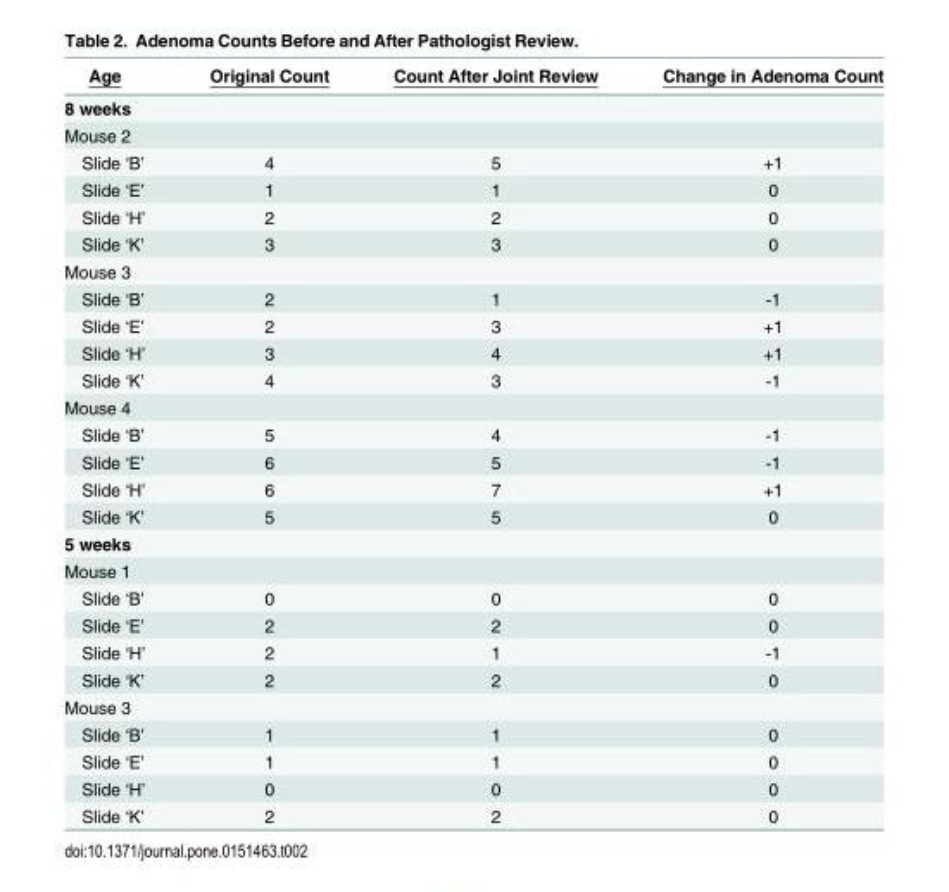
<table><thead><tr><td>Age</td><td>Original Count</td><td>Count After Joint Review</td><td>Change in Adenoma Count</td></tr></thead><tbody><tr><td colspan="4">8 weeks</td></tr><tr><td colspan="4">Mouse 2</td></tr><tr><td>Slide ‘B’</td><td>4</td><td>5</td><td>+1</td></tr><tr><td>Slide ‘E’</td><td>1</td><td>1</td><td>0</td></tr><tr><td>Slide ‘H’</td><td>2</td><td>2</td><td>0</td></tr><tr><td>Slide ‘K’</td><td>3</td><td>3</td><td>0</td></tr><tr><td colspan="4">Mouse 3</td></tr><tr><td>Slide ‘B’</td><td>2</td><td>1</td><td>-1</td></tr><tr><td>Slide ‘E’</td><td>2</td><td>3</td><td>+1</td></tr><tr><td>Slide ‘H’</td><td>3</td><td>4</td><td>+1</td></tr><tr><td>Slide ‘K’</td><td>4</td><td>3</td><td>-1</td></tr><tr><td colspan="4">Mouse 4</td></tr><tr><td>Slide ‘B’</td><td>5</td><td>4</td><td>-1</td></tr><tr><td>Slide ‘E’</td><td>6</td><td>5</td><td>-1</td></tr><tr><td>Slide ‘H’</td><td>6</td><td>7</td><td>+1</td></tr><tr><td>Slide ‘K’</td><td>5</td><td>5</td><td>0</td></tr><tr><td colspan="4">5 weeks</td></tr><tr><td colspan="4">Mouse 1</td></tr><tr><td>Slide ‘B’</td><td>0</td><td>0</td><td>0</td></tr><tr><td>Slide ‘E’</td><td>2</td><td>2</td><td>0</td></tr><tr><td>Slide ‘H’</td><td>2</td><td>1</td><td>-1</td></tr><tr><td>Slide ‘K’</td><td>2</td><td>2</td><td>0</td></tr><tr><td colspan="4">Mouse 3</td></tr><tr><td>Slide ‘B’</td><td>1</td><td>1</td><td>0</td></tr><tr><td>Slide ‘E’</td><td>1</td><td>1</td><td>0</td></tr><tr><td>Slide ‘H’</td><td>0</td><td>0</td><td>0</td></tr><tr><td>Slide ‘K’</td><td>2</td><td>2</td><td>0</td></tr></tbody></table>